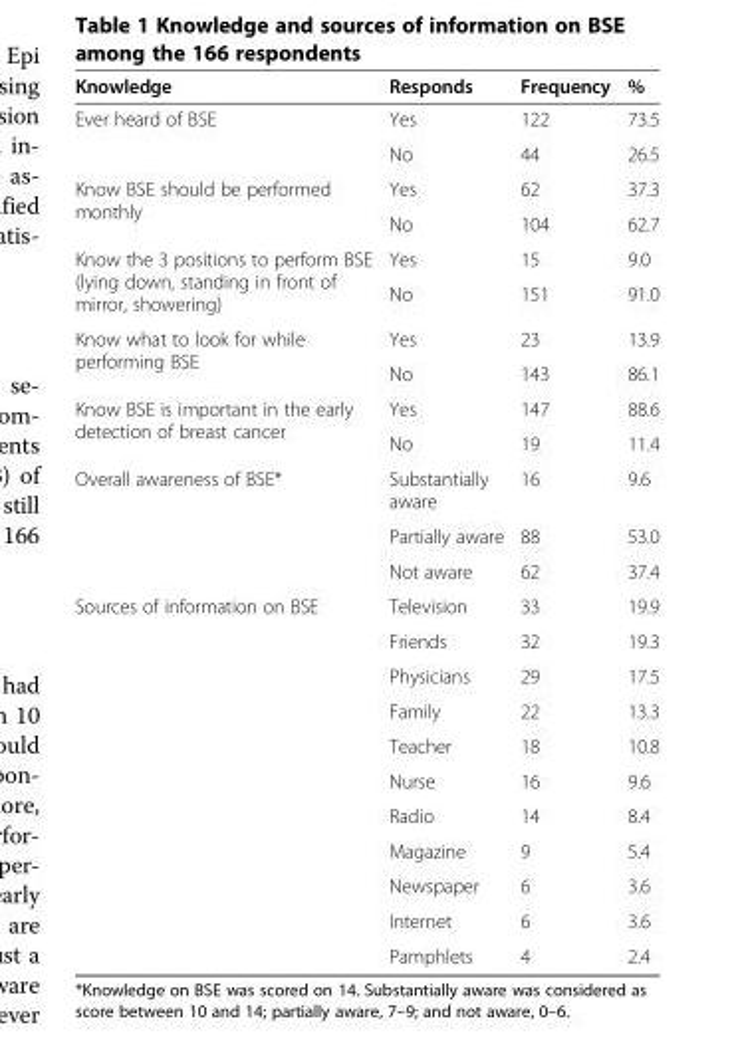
<table><thead><tr><td>Knowledge</td><td>Responds</td><td>Frequency</td><td>%</td></tr></thead><tbody><tr><td rowspan="2">Ever heard of BSE</td><td>Yes</td><td>122</td><td>73.5</td></tr><tr><td>No</td><td>44</td><td>26.5</td></tr><tr><td rowspan="2">Know BSE should be performed monthly</td><td>Yes</td><td>62</td><td>37.3</td></tr><tr><td>No</td><td>104</td><td>62.7</td></tr><tr><td rowspan="2">Know the 3 positions to perform BSE (lying down, standing in front of mirror, showering)</td><td>Yes</td><td>15</td><td>9.0</td></tr><tr><td>No</td><td>151</td><td>91.0</td></tr><tr><td rowspan="2">Know what to look for while performing BSE</td><td>Yes</td><td>23</td><td>13.9</td></tr><tr><td>No</td><td>143</td><td>86.1</td></tr><tr><td rowspan="2">Know BSE is important in the early detection of breast cancer</td><td>Yes</td><td>147</td><td>88.6</td></tr><tr><td>No</td><td>19</td><td>11.4</td></tr><tr><td rowspan="3">Overall awareness of BSE*</td><td>Substantially aware</td><td>16</td><td>9.6</td></tr><tr><td>Partially aware</td><td>88</td><td>53.0</td></tr><tr><td>Not aware</td><td>62</td><td>37.4</td></tr><tr><td rowspan="11">Sources of information on BSE</td><td>Television</td><td>33</td><td>19.9</td></tr><tr><td>Friends</td><td>32</td><td>19.3</td></tr><tr><td>Physicians</td><td>29</td><td>17.5</td></tr><tr><td>Family</td><td>22</td><td>13.3</td></tr><tr><td>Teacher</td><td>18</td><td>10.8</td></tr><tr><td>Nurse</td><td>16</td><td>9.6</td></tr><tr><td>Radio</td><td>14</td><td>8.4</td></tr><tr><td>Magazine</td><td>9</td><td>5.4</td></tr><tr><td>Newspaper</td><td>6</td><td>3.6</td></tr><tr><td>Internet</td><td>6</td><td>3.6</td></tr><tr><td>Pamphlets</td><td>4</td><td>2.4</td></tr></tbody></table>